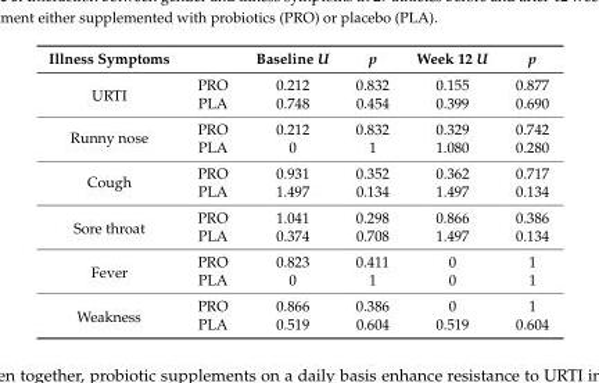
<table><thead><tr><td>Illness Symptoms</td><td></td><td>Baseline U</td><td>p</td><td>Week 12 U</td><td>p</td></tr></thead><tbody><tr><td rowspan="2">URTI</td><td>PRO</td><td>0.212</td><td>0.832</td><td>0.155</td><td>0.877</td></tr><tr><td>PLA</td><td>0.748</td><td>0.454</td><td>0.399</td><td>0.690</td></tr><tr><td rowspan="2">Runny nose</td><td>PRO</td><td>0.212</td><td>0.832</td><td>0.329</td><td>0.742</td></tr><tr><td>PLA</td><td>0</td><td>1</td><td>1.080</td><td>0.280</td></tr><tr><td rowspan="2">Cough</td><td>PRO</td><td>0.931</td><td>0.352</td><td>0.362</td><td>0.717</td></tr><tr><td>PLA</td><td>1.497</td><td>0.134</td><td>1.497</td><td>0.134</td></tr><tr><td rowspan="2">Sore throat</td><td>PRO</td><td>1.041</td><td>0.298</td><td>0.866</td><td>0.386</td></tr><tr><td>PLA</td><td>0.374</td><td>0.708</td><td>1.497</td><td>0.134</td></tr><tr><td rowspan="2">Fever</td><td>PRO</td><td>0.823</td><td>0.411</td><td>0</td><td>1</td></tr><tr><td>PLA</td><td>0</td><td>1</td><td>0</td><td>1</td></tr><tr><td rowspan="2">Weakness</td><td>PRO</td><td>0.866</td><td>0.386</td><td>0</td><td>1</td></tr><tr><td>PLA</td><td>0.519</td><td>0.604</td><td>0.519</td><td>0.604</td></tr></tbody></table>